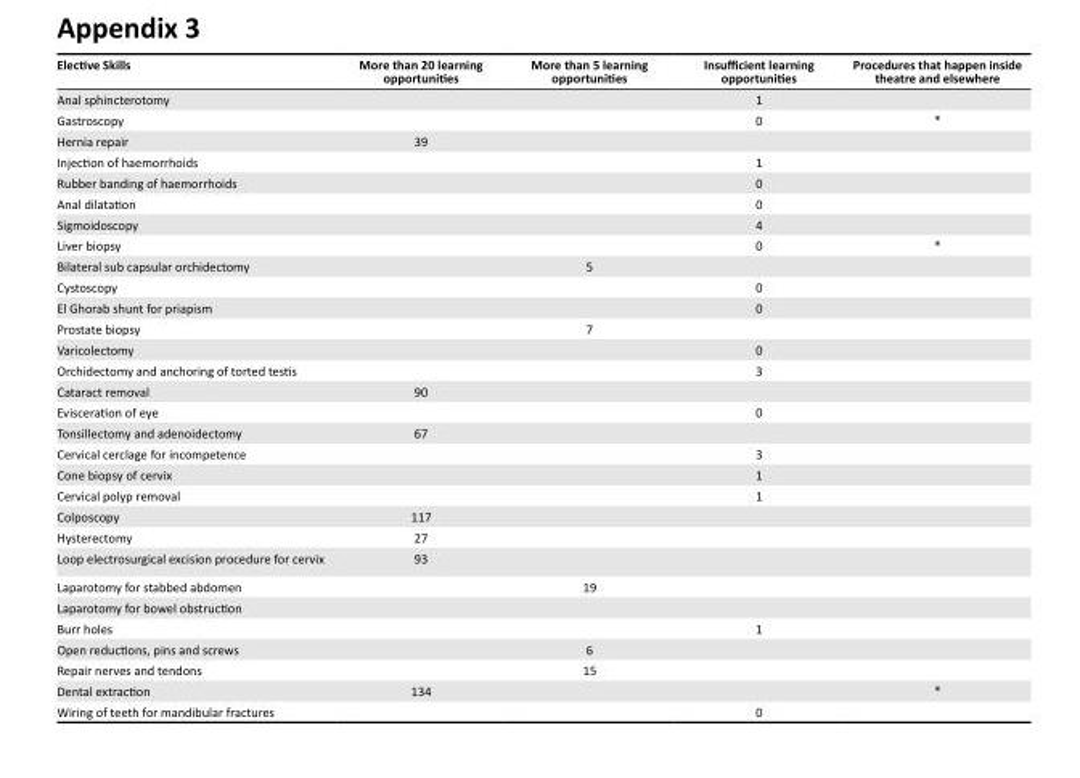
<table><thead><tr><td>Elective Skills</td><td>More than 20 learning opportunities</td><td>More than 5 learning opportunities</td><td>Insufficient learning opportunities</td><td>Procedures that happen inside theatre and elsewhere</td></tr></thead><tbody><tr><td>Anal sphincterotomy</td><td></td><td></td><td>1</td><td></td></tr><tr><td>Gastroscopy</td><td></td><td></td><td>0</td><td>*</td></tr><tr><td>Hernia repair</td><td>39</td><td></td><td></td><td></td></tr><tr><td>Injection of haemorrhoids</td><td></td><td></td><td>1</td><td></td></tr><tr><td>Rubber banding of haemorrhoids</td><td></td><td></td><td>0</td><td></td></tr><tr><td>Anal dilatation</td><td></td><td></td><td>0</td><td></td></tr><tr><td>Sigmoidoscopy</td><td></td><td></td><td>4</td><td></td></tr><tr><td>Liver biopsy</td><td></td><td></td><td>0</td><td>*</td></tr><tr><td>Bilateral sub capsular orchidectomy</td><td></td><td>5</td><td></td><td></td></tr><tr><td>Cystoscopy</td><td></td><td></td><td>0</td><td></td></tr><tr><td>El Ghorab shunt for priapism</td><td></td><td></td><td>0</td><td></td></tr><tr><td>Prostate biopsy</td><td></td><td>7</td><td></td><td></td></tr><tr><td>Varicolectomy</td><td></td><td></td><td>0</td><td></td></tr><tr><td>Orchidectomy and anchoring of torted testis</td><td></td><td></td><td>3</td><td></td></tr><tr><td>Cataract removal</td><td>90</td><td></td><td></td><td></td></tr><tr><td>Evisceration of eye</td><td></td><td></td><td>0</td><td></td></tr><tr><td>Tonsillectomy and adenoidectomy</td><td>67</td><td></td><td></td><td></td></tr><tr><td>Cervical cerclage for incompetence</td><td></td><td></td><td>3</td><td></td></tr><tr><td>Cone biopsy of cervix</td><td></td><td></td><td>1</td><td></td></tr><tr><td>Cervical polyp removal</td><td></td><td></td><td>1</td><td></td></tr><tr><td>Colposcopy</td><td>117</td><td></td><td></td><td></td></tr><tr><td>Hysterectomy</td><td>27</td><td></td><td></td><td></td></tr><tr><td>Loop electrosurgical excision procedure for cervix</td><td>93</td><td></td><td></td><td></td></tr><tr><td>Laparotomy for stabbed abdomen</td><td></td><td>19</td><td></td><td></td></tr><tr><td colspan="5">Laparotomy for bowel obstruction</td></tr><tr><td>Burr holes</td><td></td><td></td><td>1</td><td></td></tr><tr><td>Open reductions, pins and screws</td><td></td><td>6</td><td></td><td></td></tr><tr><td>Repair nerves and tendons</td><td></td><td>15</td><td></td><td></td></tr><tr><td>Dental extraction</td><td>134</td><td></td><td></td><td>*</td></tr><tr><td>Wiring of teeth for mandibular fractures</td><td></td><td></td><td>0</td><td></td></tr></tbody></table>